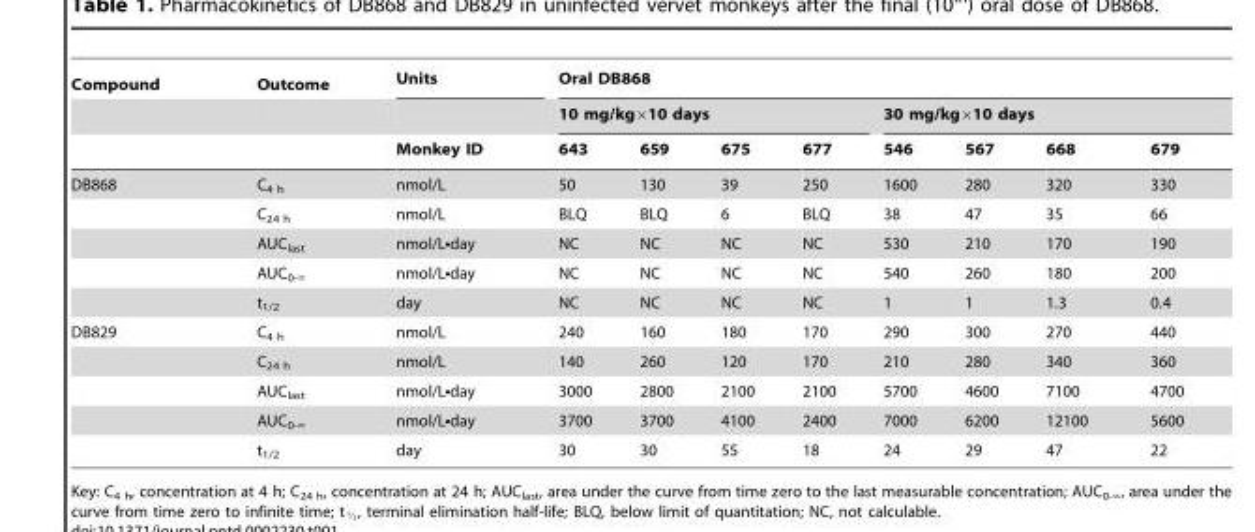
<table><thead><tr><td rowspan="3">Compound</td><td rowspan="3">Outcome</td><td rowspan="3">Units Monkey ID</td><td colspan="8">Oral DB868</td></tr><tr><td colspan="4">10 mg/kg×10 days</td><td colspan="4">30 mg/kg×10 days</td></tr><tr><td>643</td><td>659</td><td>675</td><td>677</td><td>546</td><td>567</td><td>668</td><td>679</td></tr></thead><tbody><tr><td rowspan="5">DB868</td><td>C<sub>4 h</sub></td><td>nmol/L</td><td>50</td><td>130</td><td>39</td><td>250</td><td>1600</td><td>280</td><td>320</td><td>330</td></tr><tr><td>C<sub>24 h</sub></td><td>nmol/L</td><td>BLQ</td><td>BLQ</td><td>6</td><td>BLQ</td><td>38</td><td>47</td><td>35</td><td>66</td></tr><tr><td>AUC<sub>last</sub></td><td>nmol/L•day</td><td>NC</td><td>NC</td><td>NC</td><td>NC</td><td>530</td><td>210</td><td>170</td><td>190</td></tr><tr><td>AUC0-‘</td><td>nmol/L•day</td><td>NC</td><td>NC</td><td>NC</td><td>NC</td><td>540</td><td>260</td><td>180</td><td>200</td></tr><tr><td>t<sub>1/2</sub></td><td>day</td><td>NC</td><td>NC</td><td>NC</td><td>NC</td><td>1</td><td>1</td><td>1.3</td><td>0.4</td></tr><tr><td rowspan="5">DB829</td><td>C<sub>4 h</sub></td><td>nmol/L</td><td>240</td><td>160</td><td>180</td><td>170</td><td>290</td><td>300</td><td>270</td><td>440</td></tr><tr><td>C<sub>24 h</sub></td><td>nmol/L</td><td>140</td><td>260</td><td>120</td><td>170</td><td>210</td><td>280</td><td>340</td><td>360</td></tr><tr><td>AUC<sub>last</sub></td><td>nmol/L•day</td><td>3000</td><td>2800</td><td>2100</td><td>2100</td><td>5700</td><td>4600</td><td>7100</td><td>4700</td></tr><tr><td>AUC0-‘</td><td>nmol/L•day</td><td>3700</td><td>3700</td><td>4100</td><td>2400</td><td>7000</td><td>6200</td><td>12100</td><td>5600</td></tr><tr><td>t<sub>1/2</sub></td><td>day</td><td>30</td><td>30</td><td>55</td><td>18</td><td>24</td><td>29</td><td>47</td><td>22</td></tr></tbody></table>